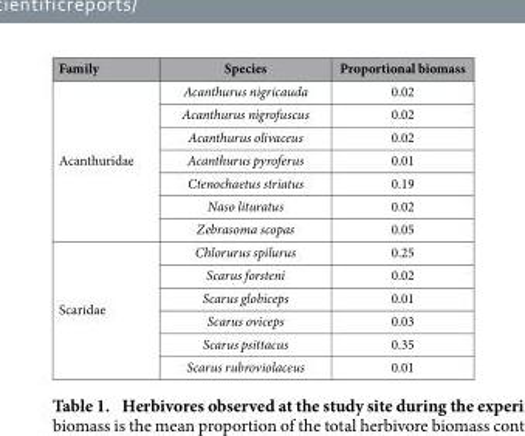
<table><thead><tr><td>Family</td><td>Species</td><td>Proportional biomass</td></tr></thead><tbody><tr><td rowspan="7">Acanthuridae</td><td>Acanthurus nigricauda</td><td>0.02</td></tr><tr><td>Acanthurus nigrofuscus</td><td>0.02</td></tr><tr><td>Acanthurus olivaceus</td><td>0.02</td></tr><tr><td>Acanthurus pyroferus</td><td>0.01</td></tr><tr><td>Ctenochaetus striatus</td><td>0.19</td></tr><tr><td>Naso lituratus</td><td>0.02</td></tr><tr><td>Zebrasoma scopas</td><td>0.05</td></tr><tr><td rowspan="6">Scaridae</td><td>Chlorurus spilurus</td><td>0.25</td></tr><tr><td>Scarus forsteni</td><td>0.02</td></tr><tr><td>Scarus globiceps</td><td>0.01</td></tr><tr><td>Scarus oviceps</td><td>0.03</td></tr><tr><td>Scarus psittacus</td><td>0.35</td></tr><tr><td>Scarus rubroviolaceus</td><td>0.01</td></tr></tbody></table>